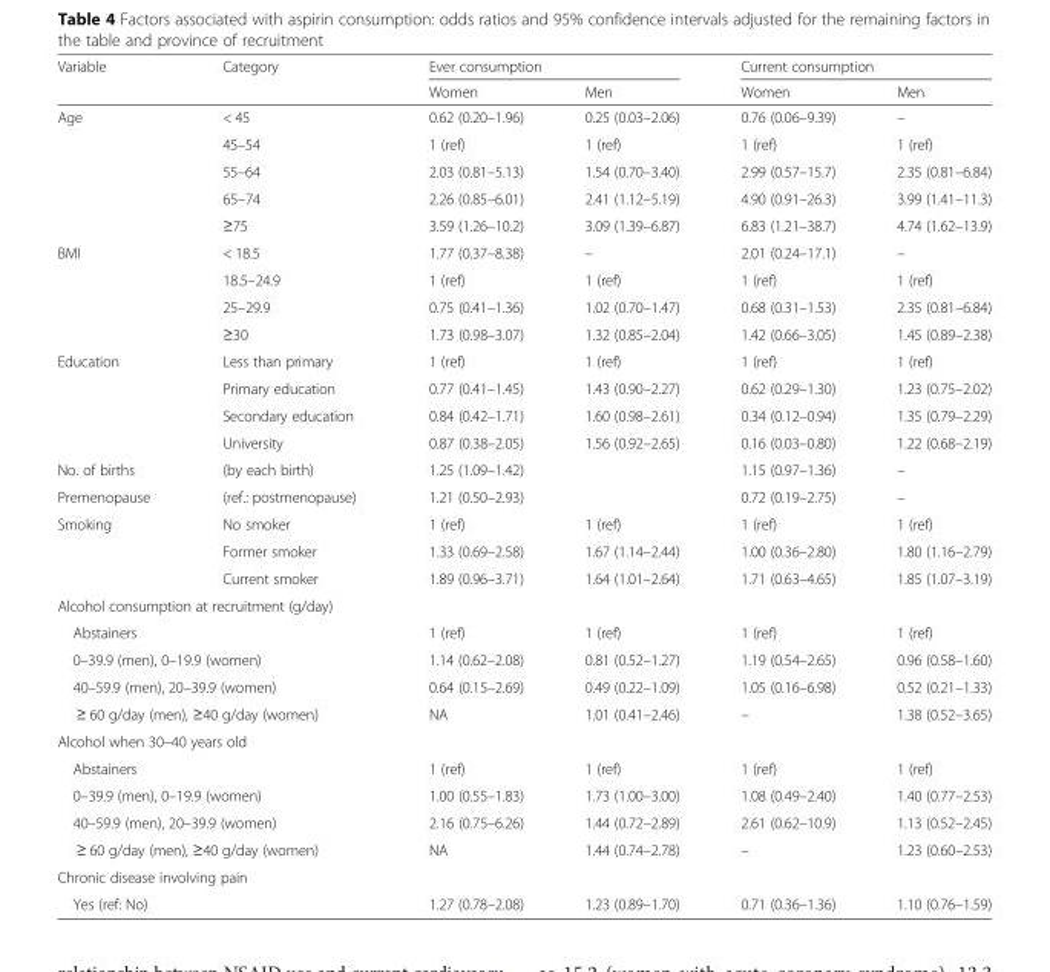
<table><thead><tr><td rowspan="2">Variable</td><td rowspan="2">Category</td><td colspan="2">Ever consumption</td><td colspan="2">Current consumption</td></tr><tr><td>Women</td><td>Men</td><td>Women</td><td>Men</td></tr></thead><tbody><tr><td rowspan="5">Age</td><td>&lt; 45</td><td>0.62 (0.20–1.96)</td><td>0.25 (0.03–2.06)</td><td>0.76 (0.06–9.39)</td><td>–</td></tr><tr><td>45–54</td><td>1 (ref)</td><td>1 (ref)</td><td>1 (ref)</td><td>1 (ref)</td></tr><tr><td>55–64</td><td>2.03 (0.81–5.13)</td><td>1.54 (0.70–3.40)</td><td>2.99 (0.57–15.7)</td><td>2.35 (0.81–6.84)</td></tr><tr><td>65–74</td><td>2.26 (0.85–6.01)</td><td>2.41 (1.12–5.19)</td><td>4.90 (0.91–26.3)</td><td>3.99 (1.41–11.3)</td></tr><tr><td>≥75</td><td>3.59 (1.26–10.2)</td><td>3.09 (1.39–6.87)</td><td>6.83 (1.21–38.7)</td><td>4.74 (1.62–13.9)</td></tr><tr><td rowspan="4">BMI</td><td>&lt; 18.5</td><td>1.77 (0.37–8.38)</td><td>–</td><td>2.01 (0.24–17.1)</td><td>–</td></tr><tr><td>18.5–24.9</td><td>1 (ref)</td><td>1 (ref)</td><td>1 (ref)</td><td>1 (ref)</td></tr><tr><td>25–29.9</td><td>0.75 (0.41–1.36)</td><td>1.02 (0.70–1.47)</td><td>0.68 (0.31–1.53)</td><td>2.35 (0.81–6.84)</td></tr><tr><td>≥30</td><td>1.73 (0.98–3.07)</td><td>1.32 (0.85–2.04)</td><td>1.42 (0.66–3.05)</td><td>1.45 (0.89–2.38)</td></tr><tr><td rowspan="4">Education</td><td>Less than primary</td><td>1 (ref)</td><td>1 (ref)</td><td>1 (ref)</td><td>1 (ref)</td></tr><tr><td>Primary education</td><td>0.77 (0.41–1.45)</td><td>1.43 (0.90–2.27)</td><td>0.62 (0.29–1.30)</td><td>1.23 (0.75–2.02)</td></tr><tr><td>Secondary education</td><td>0.84 (0.42–1.71)</td><td>1.60 (0.98–2.61)</td><td>0.34 (0.12–0.94)</td><td>1.35 (0.79–2.29)</td></tr><tr><td>University</td><td>0.87 (0.38–2.05)</td><td>1.56 (0.92–2.65)</td><td>0.16 (0.03–0.80)</td><td>1.22 (0.68–2.19)</td></tr><tr><td>No. of births</td><td>(by each birth)</td><td>1.25 (1.09–1.42)</td><td></td><td>1.15 (0.97–1.36)</td><td>–</td></tr><tr><td>Premenopause</td><td>(ref.: postmenopause)</td><td>1.21 (0.50–2.93)</td><td></td><td>0.72 (0.19–2.75)</td><td>–</td></tr><tr><td rowspan="3">Smoking</td><td>No smoker</td><td>1 (ref)</td><td>1 (ref)</td><td>1 (ref)</td><td>1 (ref)</td></tr><tr><td>Former smoker</td><td>1.33 (0.69–2.58)</td><td>1.67 (1.14–2.44)</td><td>1.00 (0.36–2.80)</td><td>1.80 (1.16–2.79)</td></tr><tr><td>Current smoker</td><td>1.89 (0.96–3.71)</td><td>1.64 (1.01–2.64)</td><td>1.71 (0.63–4.65)</td><td>1.85 (1.07–3.19)</td></tr><tr><td colspan="6">Alcohol consumption at recruitment (g/day)</td></tr><tr><td colspan="2">Abstainers</td><td>1 (ref)</td><td>1 (ref)</td><td>1 (ref)</td><td>1 (ref)</td></tr><tr><td colspan="2">0–39.9 (men), 0–19.9 (women)</td><td>1.14 (0.62–2.08)</td><td>0.81 (0.52–1.27)</td><td>1.19 (0.54–2.65)</td><td>0.96 (0.58–1.60)</td></tr><tr><td colspan="2">40–59.9 (men), 20–39.9 (women)</td><td>0.64 (0.15–2.69)</td><td>0.49 (0.22–1.09)</td><td>1.05 (0.16–6.98)</td><td>0.52 (0.21–1.33)</td></tr><tr><td colspan="2">≥ 60 g/day (men), ≥40 g/day (women)</td><td>NA</td><td>1.01 (0.41–2.46)</td><td>–</td><td>1.38 (0.52–3.65)</td></tr><tr><td colspan="6">Alcohol when 30–40 years old</td></tr><tr><td colspan="2">Abstainers</td><td>1 (ref)</td><td>1 (ref)</td><td>1 (ref)</td><td>1 (ref)</td></tr><tr><td colspan="2">0–39.9 (men), 0–19.9 (women)</td><td>1.00 (0.55–1.83)</td><td>1.73 (1.00–3.00)</td><td>1.08 (0.49–2.40)</td><td>1.40 (0.77–2.53)</td></tr><tr><td colspan="2">40–59.9 (men), 20–39.9 (women)</td><td>2.16 (0.75–6.26)</td><td>1.44 (0.72–2.89)</td><td>2.61 (0.62–10.9)</td><td>1.13 (0.52–2.45)</td></tr><tr><td colspan="2">≥ 60 g/day (men), ≥40 g/day (women)</td><td>NA</td><td>1.44 (0.74–2.78)</td><td>–</td><td>1.23 (0.60–2.53)</td></tr><tr><td colspan="6">Chronic disease involving pain</td></tr><tr><td colspan="2">Yes (ref: No)</td><td>1.27 (0.78–2.08)</td><td>1.23 (0.89–1.70)</td><td>0.71 (0.36–1.36)</td><td>1.10 (0.76–1.59)</td></tr></tbody></table>